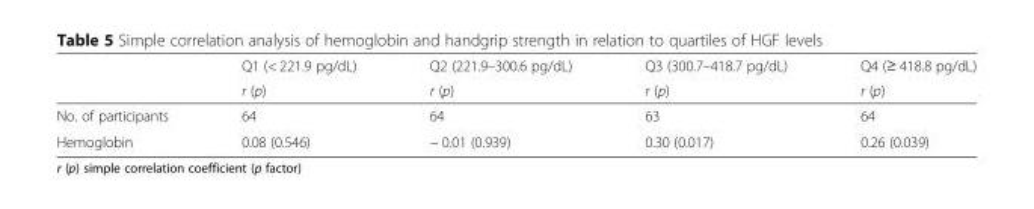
<table><thead><tr><td rowspan="2"></td><td rowspan="2">Q1 (&lt; 221.9 pg/dL) r (p)</td><td rowspan="2">Q2 (221.9–300.6 pg/dL) r (p)</td><td rowspan="2">Q3 (300.7–418.7 pg/dL) r (p)</td><td rowspan="2">Q4 (≥ 418.8 pg/dL) r (p)</td></tr><tr></tr></thead><tbody><tr><td>No. of participants</td><td>64</td><td>64</td><td>63</td><td>64</td></tr><tr><td>Hemoglobin</td><td>0.08 (0.546)</td><td>− 0.01 (0.939)</td><td>0.30 (0.017)</td><td>0.26 (0.039)</td></tr></tbody></table>